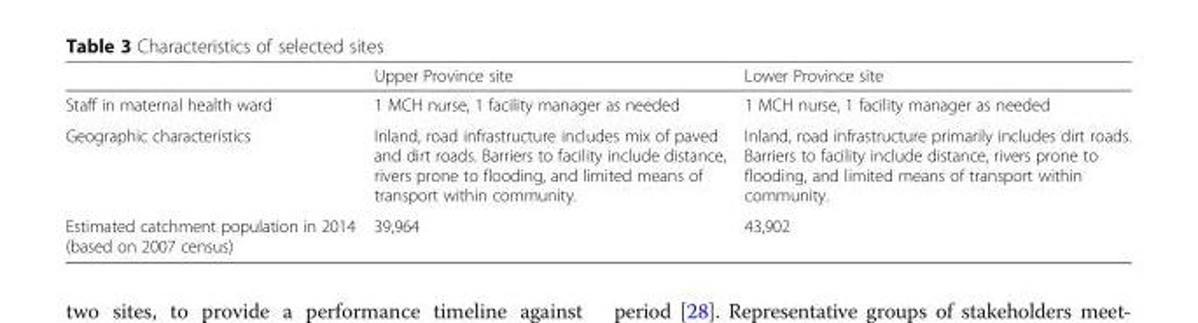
<table><thead><tr><td></td><td>Upper Province site</td><td>Lower Province site</td></tr></thead><tbody><tr><td>Staff in maternal health ward</td><td>1 MCH nurse, 1 facility manager as needed</td><td>1 MCH nurse, 1 facility manager as needed</td></tr><tr><td>Geographic characteristics</td><td>Inland, road infrastructure includes mix of paved and dirt roads. Barriers to facility include distance, rivers prone to flooding, and limited means of transport within community.</td><td>Inland, road infrastructure primarily includes dirt roads. Barriers to facility include distance, rivers prone to flooding, and limited means of transport within community.</td></tr><tr><td>Estimated catchment population in 2014 (based on 2007 census)</td><td>39,964</td><td>43,902</td></tr></tbody></table>